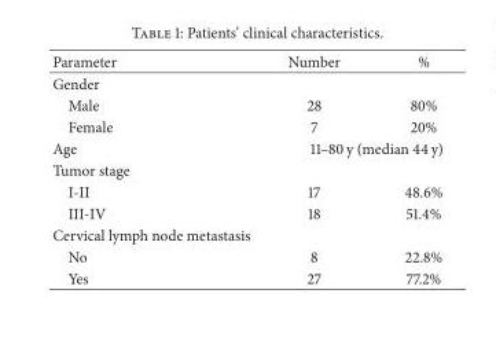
<table><thead><tr><td>Parameter</td><td>Number</td><td>%</td></tr></thead><tbody><tr><td colspan="3">Gender</td></tr><tr><td>Male</td><td>28</td><td>80%</td></tr><tr><td>Female</td><td>7</td><td>20%</td></tr><tr><td>Age</td><td colspan="2">11–80 y (median 44 y)</td></tr><tr><td colspan="3">Tumor stage</td></tr><tr><td>I-II</td><td>17</td><td>48.6%</td></tr><tr><td>III-IV</td><td>18</td><td>51.4%</td></tr><tr><td colspan="3">Cervical lymph node metastasis</td></tr><tr><td>No</td><td>8</td><td>22.8%</td></tr><tr><td>Yes</td><td>27</td><td>77.2%</td></tr></tbody></table>